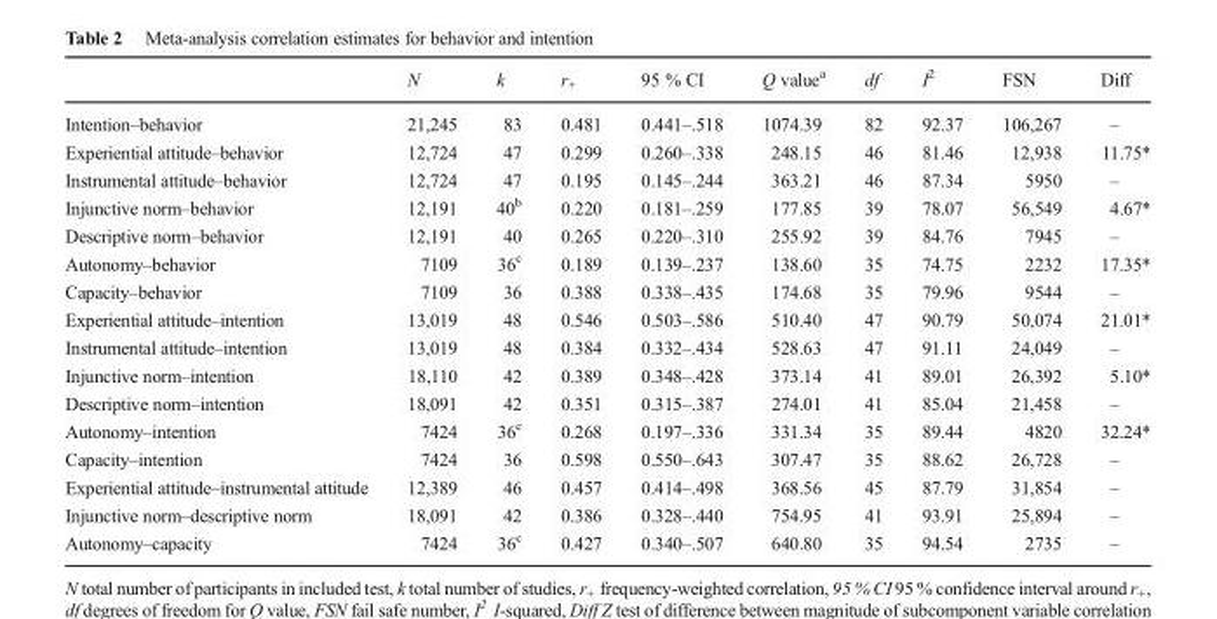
<table><thead><tr><td></td><td>N</td><td>k</td><td>r<sub>+</sub></td><td>95 % CI</td><td>Q value<sup>a</sup></td><td>df</td><td>I<sup>2</sup></td><td>FSN</td><td>Diff</td></tr></thead><tbody><tr><td>Intention–behavior</td><td>21,245</td><td>83</td><td>0.481</td><td>0.441–.518</td><td>1074.39</td><td>82</td><td>92.37</td><td>106,267</td><td>–</td></tr><tr><td>Experiential attitude–behavior</td><td>12,724</td><td>47</td><td>0.299</td><td>0.260–.338</td><td>248.15</td><td>46</td><td>81.46</td><td>12,938</td><td>11.75*</td></tr><tr><td>Instrumental attitude–behavior</td><td>12,724</td><td>47</td><td>0.195</td><td>0.145–.244</td><td>363.21</td><td>46</td><td>87.34</td><td>5950</td><td>–</td></tr><tr><td>Injunctive norm–behavior</td><td>12,191</td><td>40<sup>b</sup></td><td>0.220</td><td>0.181–.259</td><td>177.85</td><td>39</td><td>78.07</td><td>56,549</td><td>4.67*</td></tr><tr><td>Descriptive norm–behavior</td><td>12,191</td><td>40</td><td>0.265</td><td>0.220–.310</td><td>255.92</td><td>39</td><td>84.76</td><td>7945</td><td>–</td></tr><tr><td>Autonomy–behavior</td><td>7109</td><td>36<sup>c</sup></td><td>0.189</td><td>0.139–.237</td><td>138.60</td><td>35</td><td>74.75</td><td>2232</td><td>17.35*</td></tr><tr><td>Capacity–behavior</td><td>7109</td><td>36</td><td>0.388</td><td>0.338–.435</td><td>174.68</td><td>35</td><td>79.96</td><td>9544</td><td>–</td></tr><tr><td>Experiential attitude–intention</td><td>13,019</td><td>48</td><td>0.546</td><td>0.503–.586</td><td>510.40</td><td>47</td><td>90.79</td><td>50,074</td><td>21.01*</td></tr><tr><td>Instrumental attitude–intention</td><td>13,019</td><td>48</td><td>0.384</td><td>0.332–.434</td><td>528.63</td><td>47</td><td>91.11</td><td>24,049</td><td>–</td></tr><tr><td>Injunctive norm–intention</td><td>18,110</td><td>42</td><td>0.389</td><td>0.348–.428</td><td>373.14</td><td>41</td><td>89.01</td><td>26,392</td><td>5.10*</td></tr><tr><td>Descriptive norm–intention</td><td>18,091</td><td>42</td><td>0.351</td><td>0.315–.387</td><td>274.01</td><td>41</td><td>85.04</td><td>21,458</td><td>–</td></tr><tr><td>Autonomy–intention</td><td>7424</td><td>36<sup>c</sup></td><td>0.268</td><td>0.197–.336</td><td>331.34</td><td>35</td><td>89.44</td><td>4820</td><td>32.24*</td></tr><tr><td>Capacity–intention</td><td>7424</td><td>36</td><td>0.598</td><td>0.550–.643</td><td>307.47</td><td>35</td><td>88.62</td><td>26,728</td><td>–</td></tr><tr><td>Experiential attitude–instrumental attitude</td><td>12,389</td><td>46</td><td>0.457</td><td>0.414–.498</td><td>368.56</td><td>45</td><td>87.79</td><td>31,854</td><td>–</td></tr><tr><td>Injunctive norm–descriptive norm</td><td>18,091</td><td>42</td><td>0.386</td><td>0.328–.440</td><td>754.95</td><td>41</td><td>93.91</td><td>25,894</td><td>–</td></tr><tr><td>Autonomy–capacity</td><td>7424</td><td>36<sup>c</sup></td><td>0.427</td><td>0.340–.507</td><td>640.80</td><td>35</td><td>94.54</td><td>2735</td><td>–</td></tr></tbody></table>